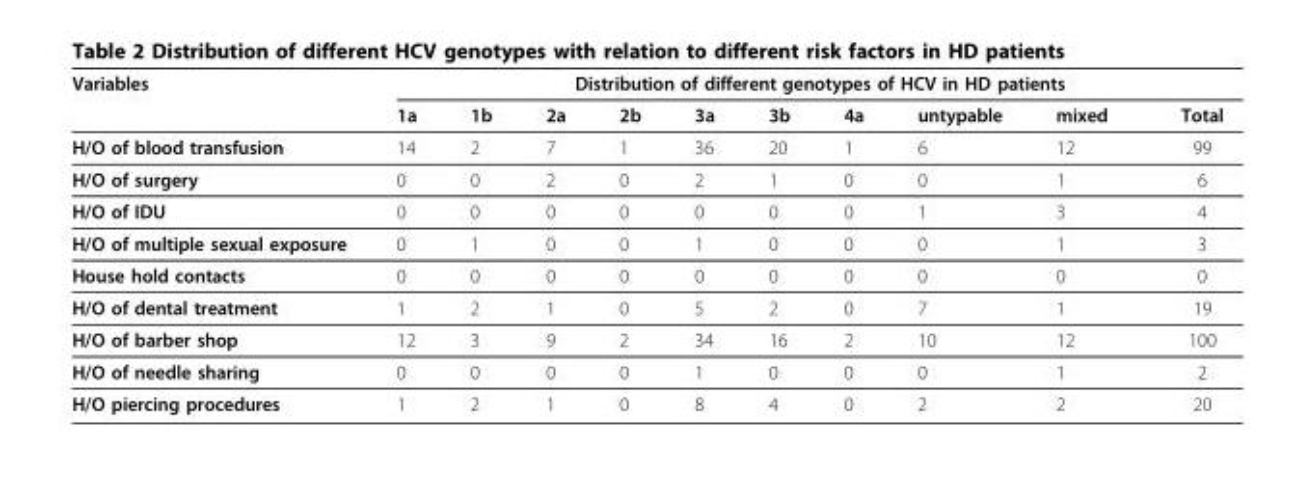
<table><thead><tr><td rowspan="2">Variables</td><td colspan="10">Distribution of different genotypes of HCV in HD patients</td></tr><tr><td>1a</td><td>1b</td><td>2a</td><td>2b</td><td>3a</td><td>3b</td><td>4a</td><td>untypable</td><td>mixed</td><td>Total</td></tr></thead><tbody><tr><td>H/O of blood transfusion</td><td>14</td><td>2</td><td>7</td><td>1</td><td>36</td><td>20</td><td>1</td><td>6</td><td>12</td><td>99</td></tr><tr><td>H/O of surgery</td><td>0</td><td>0</td><td>2</td><td>0</td><td>2</td><td>1</td><td>0</td><td>0</td><td>1</td><td>6</td></tr><tr><td>H/O of IDU</td><td>0</td><td>0</td><td>0</td><td>0</td><td>0</td><td>0</td><td>0</td><td>1</td><td>3</td><td>4</td></tr><tr><td>H/O of multiple sexual exposure</td><td>0</td><td>1</td><td>0</td><td>0</td><td>1</td><td>0</td><td>0</td><td>0</td><td>1</td><td>3</td></tr><tr><td>House hold contacts</td><td>0</td><td>0</td><td>0</td><td>0</td><td>0</td><td>0</td><td>0</td><td>0</td><td>0</td><td>0</td></tr><tr><td>H/O of dental treatment</td><td>1</td><td>2</td><td>1</td><td>0</td><td>5</td><td>2</td><td>0</td><td>7</td><td>1</td><td>19</td></tr><tr><td>H/O of barber shop</td><td>12</td><td>3</td><td>9</td><td>2</td><td>34</td><td>16</td><td>2</td><td>10</td><td>12</td><td>100</td></tr><tr><td>H/O of needle sharing</td><td>0</td><td>0</td><td>0</td><td>0</td><td>1</td><td>0</td><td>0</td><td>0</td><td>1</td><td>2</td></tr><tr><td>H/O piercing procedures</td><td>1</td><td>2</td><td>1</td><td>0</td><td>8</td><td>4</td><td>0</td><td>2</td><td>2</td><td>20</td></tr></tbody></table>